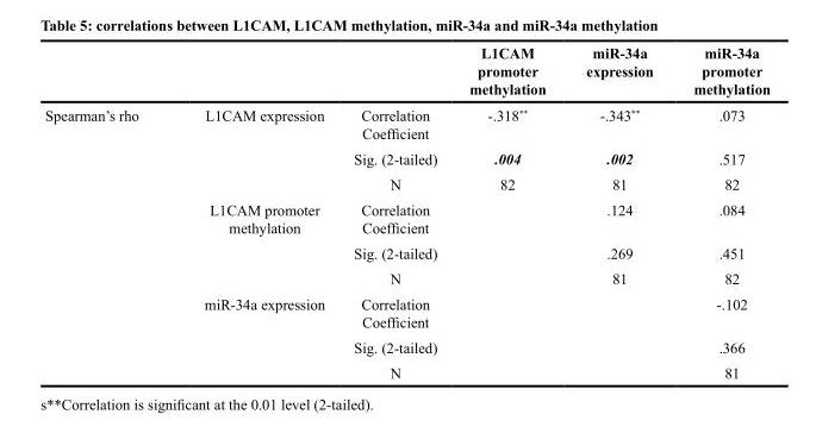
<table><thead><tr><td></td><td></td><td></td><td>L1CAM promoter methylation</td><td>miR-34a expression</td><td>miR-34a promoter methylation</td></tr></thead><tbody><tr><td rowspan="9">Spearman’s rho</td><td rowspan="3">L1CAM expression</td><td>Correlation Coefficient</td><td>-.318**</td><td>-.343**</td><td>.073</td></tr><tr><td>Sig. (2-tailed)</td><td>.004</td><td>.002</td><td>.517</td></tr><tr><td>N</td><td>82</td><td>81</td><td>82</td></tr><tr><td rowspan="3">L1CAM promoter methylation</td><td>Correlation Coefficient</td><td></td><td>.124</td><td>.084</td></tr><tr><td>Sig. (2-tailed)</td><td></td><td>.269</td><td>.451</td></tr><tr><td>N</td><td></td><td>81</td><td>82</td></tr><tr><td rowspan="3">miR-34a expression</td><td>Correlation Coefficient</td><td></td><td></td><td>-.102</td></tr><tr><td>Sig. (2-tailed)</td><td></td><td></td><td>.366</td></tr><tr><td>N</td><td></td><td></td><td>81</td></tr></tbody></table>